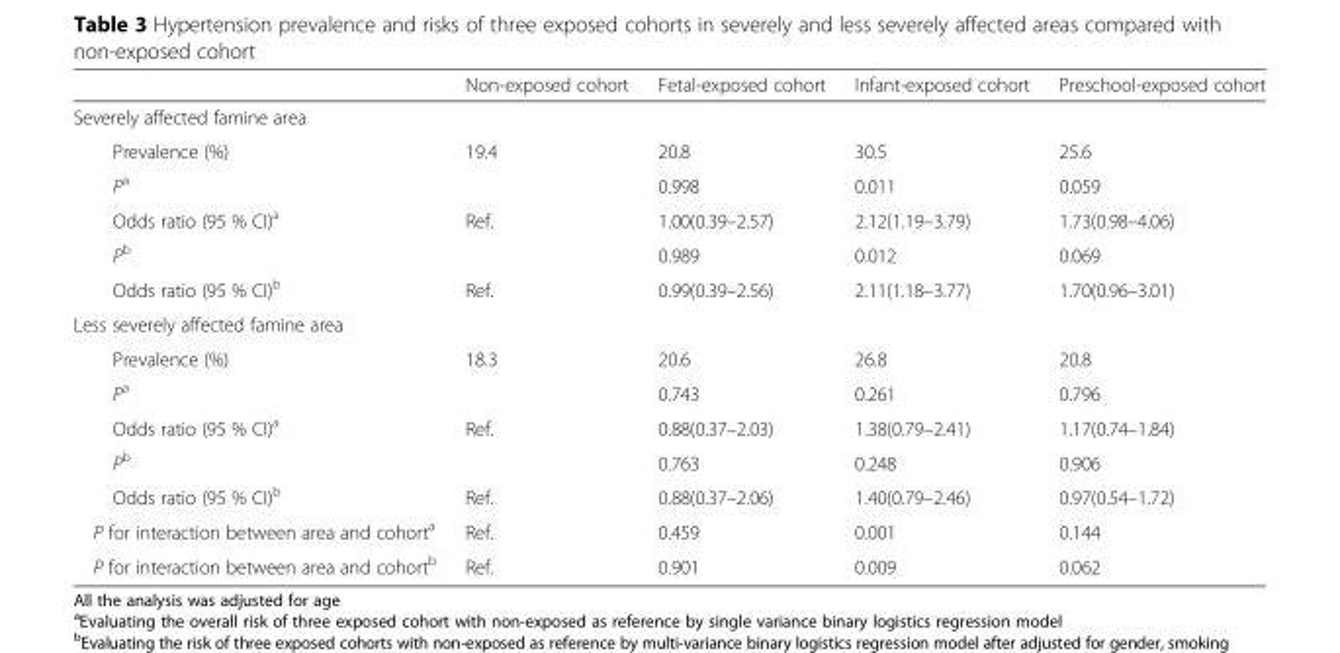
<table><thead><tr><td></td><td>Non-exposed cohort</td><td>Fetal-exposed cohort</td><td>Infant-exposed cohort</td><td>Preschool-exposed cohort</td></tr></thead><tbody><tr><td colspan="5">Severely affected famine area</td></tr><tr><td>Prevalence (%)</td><td>19.4</td><td>20.8</td><td>30.5</td><td>25.6</td></tr><tr><td>P<sup>a</sup></td><td></td><td>0.998</td><td>0.011</td><td>0.059</td></tr><tr><td>Odds ratio (95 % CI)<sup>a</sup></td><td>Ref.</td><td>1.00(0.39–2.57)</td><td>2.12(1.19–3.79)</td><td>1.73(0.98–4.06)</td></tr><tr><td>P<sup>b</sup></td><td></td><td>0.989</td><td>0.012</td><td>0.069</td></tr><tr><td>Odds ratio (95 % CI)<sup>b</sup></td><td>Ref.</td><td>0.99(0.39–2.56)</td><td>2.11(1.18–3.77)</td><td>1.70(0.96–3.01)</td></tr><tr><td colspan="5">Less severely affected famine area</td></tr><tr><td>Prevalence (%)</td><td>18.3</td><td>20.6</td><td>26.8</td><td>20.8</td></tr><tr><td>P<sup>a</sup></td><td></td><td>0.743</td><td>0.261</td><td>0.796</td></tr><tr><td>Odds ratio (95 % CI)<sup>a</sup></td><td>Ref.</td><td>0.88(0.37–2.03)</td><td>1.38(0.79–2.41)</td><td>1.17(0.74–1.84)</td></tr><tr><td>P<sup>b</sup></td><td></td><td>0.763</td><td>0.248</td><td>0.906</td></tr><tr><td>Odds ratio (95 % CI)<sup>b</sup></td><td>Ref.</td><td>0.88(0.37–2.06)</td><td>1.40(0.79–2.46)</td><td>0.97(0.54–1.72)</td></tr><tr><td>P for interaction between area and cohort<sup>a</sup></td><td>Ref.</td><td>0.459</td><td>0.001</td><td>0.144</td></tr><tr><td>P for interaction between area and cohort<sup>b</sup></td><td>Ref.</td><td>0.901</td><td>0.009</td><td>0.062</td></tr></tbody></table>